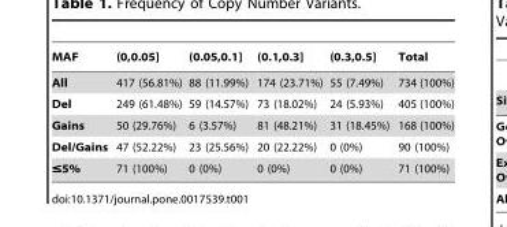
<table><thead><tr><td>MAF</td><td>(0,0.05]</td><td>(0.05,0.1]</td><td>(0.1,0.3]</td><td>(0.3,0.5]</td><td>Total</td></tr></thead><tbody><tr><td>All</td><td>417 (56.81%)</td><td>88 (11.99%)</td><td>174 (23.71%)</td><td>55 (7.49%)</td><td>734 (100%)</td></tr><tr><td>Del</td><td>249 (61.48%)</td><td>59 (14.57%)</td><td>73 (18.02%)</td><td>24 (5.93%)</td><td>405 (100%)</td></tr><tr><td>Gains</td><td>50 (29.76%)</td><td>6 (3.57%)</td><td>81 (48.21%)</td><td>31 (18.45%)</td><td>168 (100%)</td></tr><tr><td>Del/Gains</td><td>47 (52.22%)</td><td>23 (25.56%)</td><td>20 (22.22%)</td><td>0 (0%)</td><td>90 (100%)</td></tr><tr><td>≤5%</td><td>71 (100%)</td><td>0 (0%)</td><td>0 (0%)</td><td>0 (0%)</td><td>71 (100%)</td></tr></tbody></table>